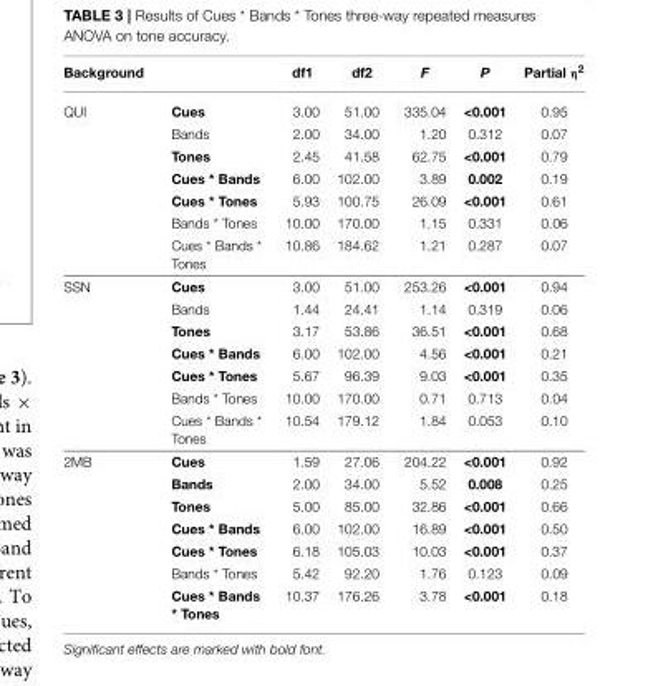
<table><thead><tr><td>Background</td><td></td><td>df1</td><td>df2</td><td>F</td><td>P</td><td>Partial η<sup>2</sup></td></tr></thead><tbody><tr><td rowspan="7">QUI</td><td>Cues</td><td>3.00</td><td>51.00</td><td>335.04</td><td>&lt;0.001</td><td>0.95</td></tr><tr><td>Bands</td><td>2.00</td><td>34.00</td><td>1.20</td><td>0.312</td><td>0.07</td></tr><tr><td>Tones</td><td>2.45</td><td>41.58</td><td>62.75</td><td>&lt;0.001</td><td>0.79</td></tr><tr><td>Cues * Bands</td><td>6.00</td><td>102.00</td><td>3.89</td><td>0.002</td><td>0.19</td></tr><tr><td>Cues * Tones</td><td>5.93</td><td>100.75</td><td>26.09</td><td>&lt;0.001</td><td>0.61</td></tr><tr><td>Bands * Tones</td><td>10.00</td><td>170.00</td><td>1.15</td><td>0.331</td><td>0.06</td></tr><tr><td>Cues * Bands * Tones</td><td>10.86</td><td>184.62</td><td>1.21</td><td>0.287</td><td>0.07</td></tr><tr><td rowspan="7">SSN</td><td>Cues</td><td>3.00</td><td>51.00</td><td>253.26</td><td>&lt;0.001</td><td>0.94</td></tr><tr><td>Bands</td><td>1.44</td><td>24.41</td><td>1.14</td><td>0.319</td><td>0.06</td></tr><tr><td>Tones</td><td>3.17</td><td>53.86</td><td>36.51</td><td>&lt;0.001</td><td>0.68</td></tr><tr><td>Cues * Bands</td><td>6.00</td><td>102.00</td><td>4.56</td><td>&lt;0.001</td><td>0.21</td></tr><tr><td>Cues * Tones</td><td>5.67</td><td>96.39</td><td>9.03</td><td>&lt;0.001</td><td>0.35</td></tr><tr><td>Bands * Tones</td><td>10.00</td><td>170.00</td><td>0.71</td><td>0.713</td><td>0.04</td></tr><tr><td>Cues * Bands * Tones</td><td>10.54</td><td>179.12</td><td>1.84</td><td>0.053</td><td>0.10</td></tr><tr><td rowspan="7">2MB</td><td>Cues</td><td>1.59</td><td>27.06</td><td>204.22</td><td>&lt;0.001</td><td>0.92</td></tr><tr><td>Bands</td><td>2.00</td><td>34.00</td><td>5.52</td><td>0.008</td><td>0.25</td></tr><tr><td>Tones</td><td>5.00</td><td>85.00</td><td>32.86</td><td>&lt;0.001</td><td>0.66</td></tr><tr><td>Cues * Bands</td><td>6.00</td><td>102.00</td><td>16.89</td><td>&lt;0.001</td><td>0.50</td></tr><tr><td>Cues * Tones</td><td>6.18</td><td>105.03</td><td>10.03</td><td>&lt;0.001</td><td>0.37</td></tr><tr><td>Bands * Tones</td><td>5.42</td><td>92.20</td><td>1.76</td><td>0.123</td><td>0.09</td></tr><tr><td>Cues * Bands * Tones</td><td>10.37</td><td>176.26</td><td>3.78</td><td>&lt;0.001</td><td>0.18</td></tr></tbody></table>